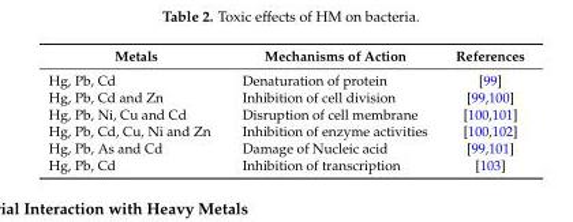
<table><thead><tr><td>Metals</td><td>Mechanisms of Action</td><td>References</td></tr></thead><tbody><tr><td>Hg, Pb, Cd</td><td>Denaturation of protein</td><td>[99]</td></tr><tr><td>Hg, Pb, Cd and Zn</td><td>Inhibition of cell division</td><td>[99,100]</td></tr><tr><td>Hg, Pb, Ni, Cu and Cd</td><td>Disruption of cell membrane</td><td>[100,101]</td></tr><tr><td>Hg, Pb, Cd, Cu, Ni and Zn</td><td>Inhibition of enzyme activities</td><td>[100,102]</td></tr><tr><td>Hg, Pb, As and Cd</td><td>Damage of Nucleic acid</td><td>[99,101]</td></tr><tr><td>Hg, Pb, Cd</td><td>Inhibition of transcription</td><td>[103]</td></tr></tbody></table>